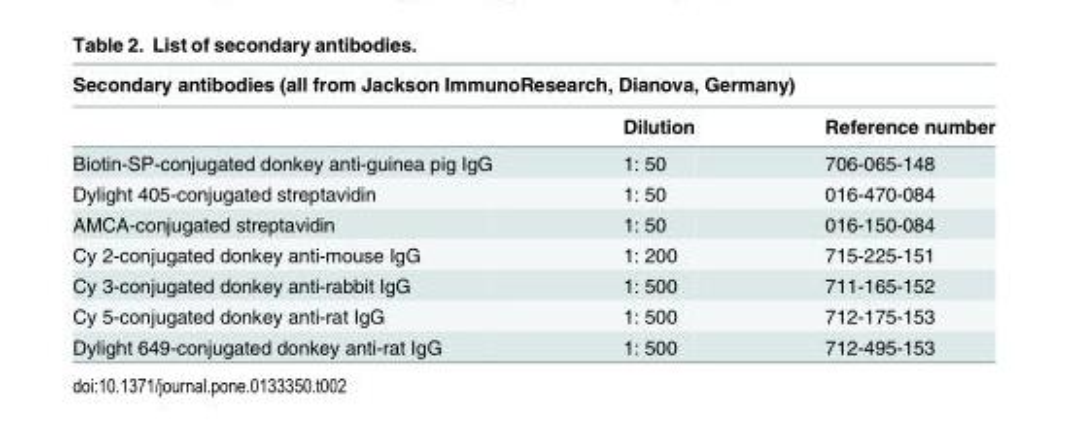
<table><thead><tr><td colspan="3">Secondary antibodies (all from Jackson ImmunoResearch, Dianova, Germany)</td></tr><tr><td></td><td>Dilution</td><td>Reference number</td></tr></thead><tbody><tr><td>Biotin-SP-conjugated donkey anti-guinea pig IgG</td><td>1: 50</td><td>706-065-148</td></tr><tr><td>Dylight 405-conjugated streptavidin</td><td>1: 50</td><td>016-470-084</td></tr><tr><td>AMCA-conjugated streptavidin</td><td>1: 50</td><td>016-150-084</td></tr><tr><td>Cy 2-conjugated donkey anti-mouse IgG</td><td>1: 200</td><td>715-225-151</td></tr><tr><td>Cy 3-conjugated donkey anti-rabbit IgG</td><td>1: 500</td><td>711-165-152</td></tr><tr><td>Cy 5-conjugated donkey anti-rat IgG</td><td>1: 500</td><td>712-175-153</td></tr><tr><td>Dylight 649-conjugated donkey anti-rat IgG</td><td>1: 500</td><td>712-495-153</td></tr></tbody></table>